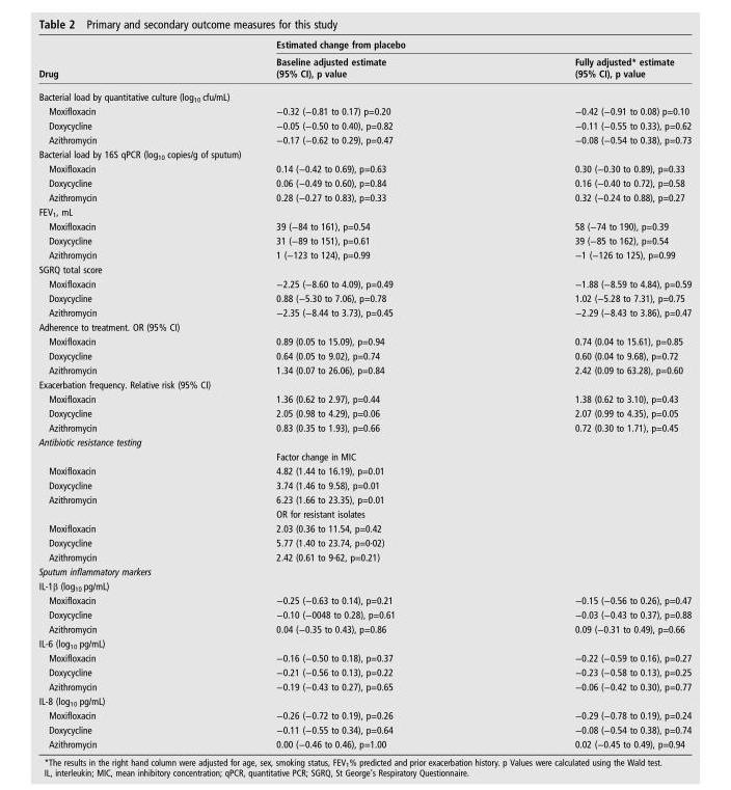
<table><thead><tr><td rowspan="2">Drug</td><td colspan="2">Estimated change from placebo</td></tr><tr><td>Baseline adjusted estimate (95% CI), p value</td><td>Fully adjusted* estimate (95% CI), p value</td></tr></thead><tbody><tr><td colspan="3">Bacterial load by quantitative culture (log<sub>10</sub> cfu/mL)</td></tr><tr><td>Moxifloxacin</td><td>−0.32 (−0.81 to 0.17) p=0.20</td><td>−0.42 (−0.91 to 0.08) p=0.10</td></tr><tr><td>Doxycycline</td><td>−0.05 (−0.50 to 0.40), p=0.82</td><td>−0.11 (−0.55 to 0.33), p=0.62</td></tr><tr><td>Azithromycin</td><td>−0.17 (−0.62 to 0.29), p=0.47</td><td>−0.08 (−0.54 to 0.38), p=0.73</td></tr><tr><td colspan="3">Bacterial load by 16S qPCR (log<sub>10</sub> copies/g of sputum)</td></tr><tr><td>Moxifloxacin</td><td>0.14 (−0.42 to 0.69), p=0.63</td><td>0.30 (−0.30 to 0.89), p=0.33</td></tr><tr><td>Doxycycline</td><td>0.06 (−0.49 to 0.60), p=0.84</td><td>0.16 (−0.40 to 0.72), p=0.58</td></tr><tr><td>Azithromycin</td><td>0.28 (−0.27 to 0.83), p=0.33</td><td>0.32 (−0.24 to 0.88), p=0.27</td></tr><tr><td colspan="3">FEV<sub>1</sub>, mL</td></tr><tr><td>Moxifloxacin</td><td>39 (−84 to 161), p=0.54</td><td>58 (−74 to 190), p=0.39</td></tr><tr><td>Doxycycline</td><td>31 (−89 to 151), p=0.61</td><td>39 (−85 to 162), p=0.54</td></tr><tr><td>Azithromycin</td><td>1 (−123 to 124), p=0.99</td><td>−1 (−126 to 125), p=0.99</td></tr><tr><td colspan="3">SGRQ total score</td></tr><tr><td>Moxifloxacin</td><td>−2.25 (−8.60 to 4.09), p=0.49</td><td>−1.88 (−8.59 to 4.84), p=0.59</td></tr><tr><td>Doxycycline</td><td>0.88 (−5.30 to 7.06), p=0.78</td><td>1.02 (−5.28 to 7.31), p=0.75</td></tr><tr><td>Azithromycin</td><td>−2.35 (−8.44 to 3.73), p=0.45</td><td>−2.29 (−8.43 to 3.86), p=0.47</td></tr><tr><td colspan="3">Adherence to treatment. OR (95% CI)</td></tr><tr><td>Moxifloxacin</td><td>0.89 (0.05 to 15.09), p=0.94</td><td>0.74 (0.04 to 15.61), p=0.85</td></tr><tr><td>Doxycycline</td><td>0.64 (0.05 to 9.02), p=0.74</td><td>0.60 (0.04 to 9.68), p=0.72</td></tr><tr><td>Azithromycin</td><td>1.34 (0.07 to 26.06), p=0.84</td><td>2.42 (0.09 to 63.28), p=0.60</td></tr><tr><td colspan="3">Exacerbation frequency. Relative risk (95% CI)</td></tr><tr><td>Moxifloxacin</td><td>1.36 (0.62 to 2.97), p=0.44</td><td>1.38 (0.62 to 3.10), p=0.43</td></tr><tr><td>Doxycycline</td><td>2.05 (0.98 to 4.29), p=0.06</td><td>2.07 (0.99 to 4.35), p=0.05</td></tr><tr><td>Azithromycin</td><td>0.83 (0.35 to 1.93), p=0.66</td><td>0.72 (0.30 to 1.71), p=0.45</td></tr><tr><td colspan="3">Antibiotic resistance testing</td></tr><tr><td></td><td colspan="2">Factor change in MIC</td></tr><tr><td>Moxifloxacin</td><td colspan="2">4.82 (1.44 to 16.19), p=0.01</td></tr><tr><td>Doxycycline</td><td colspan="2">3.74 (1.46 to 9.58), p=0.01</td></tr><tr><td rowspan="2">Azithromycin</td><td colspan="2">6.23 (1.66 to 23.35), p=0.01</td></tr><tr><td colspan="2">OR for resistant isolates</td></tr><tr><td>Moxifloxacin</td><td colspan="2">2.03 (0.36 to 11.54, p=0.42</td></tr><tr><td>Doxycycline</td><td colspan="2">5.77 (1.40 to 23.74, p=0·02)</td></tr><tr><td>Azithromycin</td><td colspan="2">2.42 (0.61 to 9·62, p=0.21)</td></tr><tr><td colspan="3">Sputum inflammatory markers</td></tr><tr><td colspan="3">IL-1β (log<sub>10</sub> pg/mL)</td></tr><tr><td>Moxifloxacin</td><td>−0.25 (−0.63 to 0.14), p=0.21</td><td>−0.15 (−0.56 to 0.26), p=0.47</td></tr><tr><td>Doxycycline</td><td>−0.10 (−0048 to 0.28), p=0.61</td><td>−0.03 (−0.43 to 0.37), p=0.88</td></tr><tr><td>Azithromycin</td><td>0.04 (−0.35 to 0.43), p=0.86</td><td>0.09 (−0.31 to 0.49), p=0.66</td></tr><tr><td colspan="3">IL-6 (log<sub>10</sub> pg/mL)</td></tr><tr><td>Moxifloxacin</td><td>−0.16 (−0.50 to 0.18), p=0.37</td><td>−0.22 (−0.59 to 0.16), p=0.27</td></tr><tr><td>Doxycycline</td><td>−0.21 (−0.56 to 0.13), p=0.22</td><td>−0.23 (−0.58 to 0.13), p=0.25</td></tr><tr><td>Azithromycin</td><td>−0.19 (−0.43 to 0.27), p=0.65</td><td>−0.06 (−0.42 to 0.30), p=0.77</td></tr><tr><td colspan="3">IL-8 (log<sub>10</sub> pg/mL)</td></tr><tr><td>Moxifloxacin</td><td>−0.26 (−0.72 to 0.19), p=0.26</td><td>−0.29 (−0.78 to 0.19), p=0.24</td></tr><tr><td>Doxycycline</td><td>−0.11 (−0.55 to 0.34), p=0.64</td><td>−0.08 (−0.54 to 0.38), p=0.74</td></tr><tr><td>Azithromycin</td><td>0.00 (−0.46 to 0.46), p=1.00</td><td>0.02 (−0.45 to 0.49), p=0.94</td></tr></tbody></table>